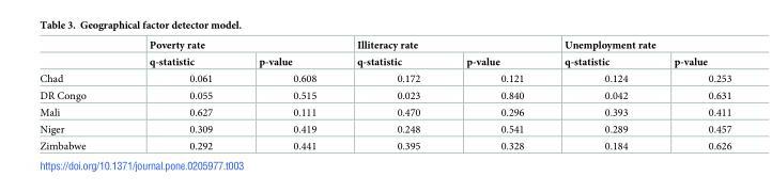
<table><thead><tr><td rowspan="2"></td><td colspan="2">Poverty rate</td><td colspan="2">Illiteracy rate</td><td colspan="2">Unemployment rate</td></tr><tr><td>q-statistic</td><td>p-value</td><td>q-statistic</td><td>p-value</td><td>q-statistic</td><td>p-value</td></tr></thead><tbody><tr><td>Chad</td><td>0.061</td><td>0.608</td><td>0.172</td><td>0.121</td><td>0.124</td><td>0.253</td></tr><tr><td>DR Congo</td><td>0.055</td><td>0.515</td><td>0.023</td><td>0.840</td><td>0.042</td><td>0.631</td></tr><tr><td>Mali</td><td>0.627</td><td>0.111</td><td>0.470</td><td>0.296</td><td>0.393</td><td>0.411</td></tr><tr><td>Niger</td><td>0.309</td><td>0.419</td><td>0.248</td><td>0.541</td><td>0.289</td><td>0.457</td></tr><tr><td>Zimbabwe</td><td>0.292</td><td>0.441</td><td>0.395</td><td>0.328</td><td>0.184</td><td>0.626</td></tr></tbody></table>